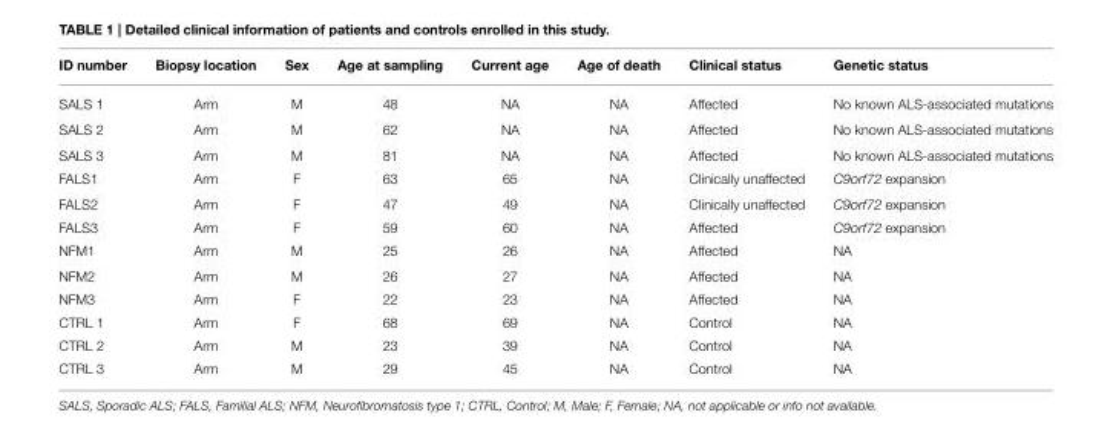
<table><thead><tr><td>ID number</td><td>Biopsy location</td><td>Sex</td><td>Age at sampling</td><td>Current age</td><td>Age of death</td><td>Clinical status</td><td>Genetic status</td></tr></thead><tbody><tr><td>SALS 1</td><td>Arm</td><td>M</td><td>48</td><td>NA</td><td>NA</td><td>Affected</td><td>No known ALS-associated mutations</td></tr><tr><td>SALS 2</td><td>Arm</td><td>M</td><td>62</td><td>NA</td><td>NA</td><td>Affected</td><td>No known ALS-associated mutations</td></tr><tr><td>SALS 3</td><td>Arm</td><td>M</td><td>81</td><td>NA</td><td>NA</td><td>Affected</td><td>No known ALS-associated mutations</td></tr><tr><td>FALS1</td><td>Arm</td><td>F</td><td>63</td><td>65</td><td>NA</td><td>Clinically unaffected</td><td>C9orf72 expansion</td></tr><tr><td>FALS2</td><td>Arm</td><td>F</td><td>47</td><td>49</td><td>NA</td><td>Clinically unaffected</td><td>C9orf72 expansion</td></tr><tr><td>FALS3</td><td>Arm</td><td>F</td><td>59</td><td>60</td><td>NA</td><td>Affected</td><td>C9orf72 expansion</td></tr><tr><td>NFM1</td><td>Arm</td><td>M</td><td>25</td><td>26</td><td>NA</td><td>Affected</td><td>NA</td></tr><tr><td>NFM2</td><td>Arm</td><td>M</td><td>26</td><td>27</td><td>NA</td><td>Affected</td><td>NA</td></tr><tr><td>NFM3</td><td>Arm</td><td>F</td><td>22</td><td>23</td><td>NA</td><td>Affected</td><td>NA</td></tr><tr><td>CTRL 1</td><td>Arm</td><td>F</td><td>68</td><td>69</td><td>NA</td><td>Control</td><td>NA</td></tr><tr><td>CTRL 2</td><td>Arm</td><td>M</td><td>23</td><td>39</td><td>NA</td><td>Control</td><td>NA</td></tr><tr><td>CTRL 3</td><td>Arm</td><td>M</td><td>29</td><td>45</td><td>NA</td><td>Control</td><td>NA</td></tr></tbody></table>